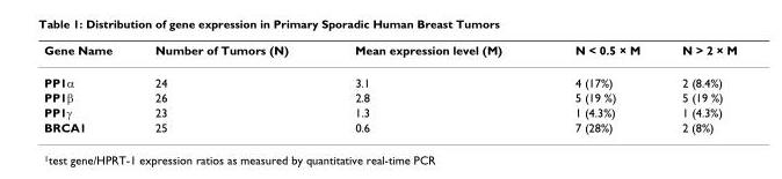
<table><thead><tr><td>Gene Name</td><td>Number of Tumors (N)</td><td>Mean expression level (M)</td><td>N &lt; 0.5 × M</td><td>N &gt; 2 × M</td></tr></thead><tbody><tr><td>PP1α</td><td>24</td><td>3.1</td><td>4 (17%)</td><td>2 (8.4%)</td></tr><tr><td>PP1β</td><td>26</td><td>2.8</td><td>5 (19 %)</td><td>5 (19 %)</td></tr><tr><td>PP1γ</td><td>23</td><td>1.3</td><td>1 (4.3%)</td><td>1 (4.3%)</td></tr><tr><td>BRCA1</td><td>25</td><td>0.6</td><td>7 (28%)</td><td>2 (8%)</td></tr></tbody></table>